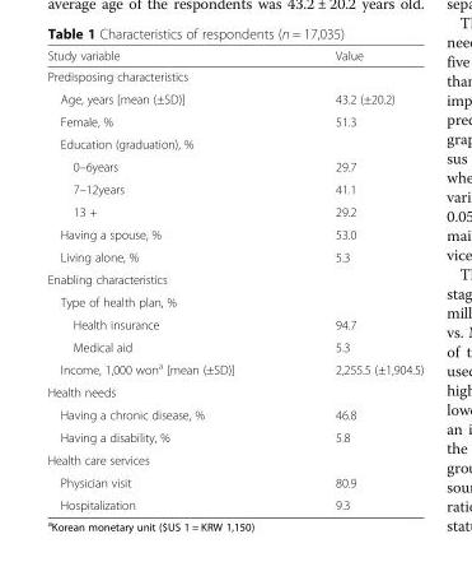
<table><thead><tr><td>Study variable</td><td>Value</td></tr></thead><tbody><tr><td colspan="2">Predisposing characteristics</td></tr><tr><td>Age, years [mean (±SD)]</td><td>43.2 (±20.2)</td></tr><tr><td>Female, %</td><td>51.3</td></tr><tr><td colspan="2">Education (graduation), %</td></tr><tr><td>0–6years</td><td>29.7</td></tr><tr><td>7–12years</td><td>41.1</td></tr><tr><td>13 +</td><td>29.2</td></tr><tr><td>Having a spouse, %</td><td>53.0</td></tr><tr><td>Living alone, %</td><td>5.3</td></tr><tr><td colspan="2">Enabling characteristics</td></tr><tr><td colspan="2">Type of health plan, %</td></tr><tr><td>Health insurance</td><td>94.7</td></tr><tr><td>Medical aid</td><td>5.3</td></tr><tr><td>Income, 1,000 won<sup>a</sup> [mean (±SD)]</td><td>2,255.5 (±1,904.5)</td></tr><tr><td colspan="2">Health needs</td></tr><tr><td>Having a chronic disease, %</td><td>46.8</td></tr><tr><td>Having a disability, %</td><td>5.8</td></tr><tr><td colspan="2">Health care services</td></tr><tr><td>Physician visit</td><td>80.9</td></tr><tr><td>Hospitalization</td><td>9.3</td></tr></tbody></table>